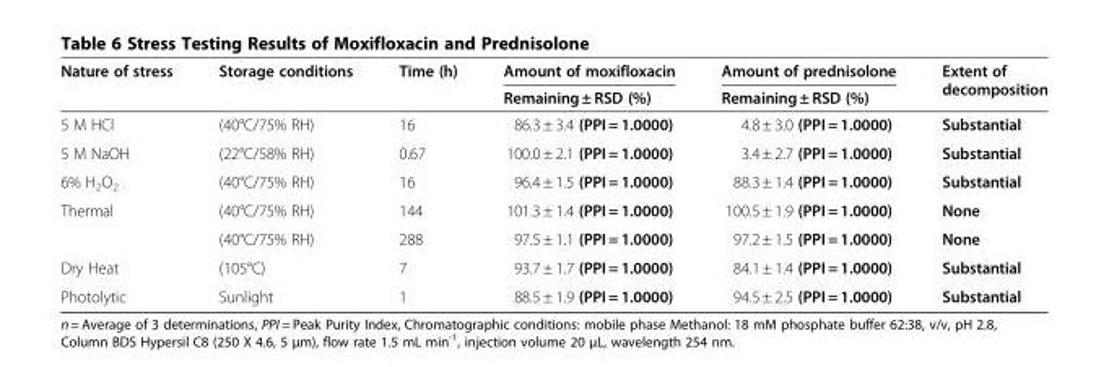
<table><thead><tr><td rowspan="2">Nature of stress</td><td rowspan="2">Storage conditions</td><td rowspan="2">Time (h)</td><td rowspan="2">Amount of moxifloxacin Remaining ± RSD (%)</td><td rowspan="2">Amount of prednisolone Remaining ± RSD (%)</td><td rowspan="2">Extent of decomposition</td></tr><tr></tr></thead><tbody><tr><td>5 M HCl</td><td>(40°C/75% RH)</td><td>16</td><td>86.3 ± 3.4 (PPI = 1.0000)</td><td>4.8 ± 3.0 (PPI = 1.0000)</td><td>Substantial</td></tr><tr><td>5 M NaOH</td><td>(22°C/58% RH)</td><td>0.67</td><td>100.0 ± 2.1 (PPI = 1.0000)</td><td>3.4 ± 2.7 (PPI = 1.0000)</td><td>Substantial</td></tr><tr><td>6% H<sub>2</sub>O<sub>2</sub></td><td>(40°C/75% RH)</td><td>16</td><td>96.4 ± 1.5 (PPI = 1.0000)</td><td>88.3 ± 1.4 (PPI = 1.0000)</td><td>Substantial</td></tr><tr><td rowspan="2">Thermal</td><td>(40°C/75% RH)</td><td>144</td><td>101.3 ± 1.4 (PPI = 1.0000)</td><td>100.5 ± 1.9 (PPI = 1.0000)</td><td>None</td></tr><tr><td>(40°C/75% RH)</td><td>288</td><td>97.5 ± 1.1 (PPI = 1.0000)</td><td>97.2 ± 1.5 (PPI = 1.0000)</td><td>None</td></tr><tr><td>Dry Heat</td><td>(105°C)</td><td>7</td><td>93.7 ± 1.7 (PPI = 1.0000)</td><td>84.1 ± 1.4 (PPI = 1.0000)</td><td>Substantial</td></tr><tr><td>Photolytic</td><td>Sunlight</td><td>1</td><td>88.5 ± 1.9 (PPI = 1.0000)</td><td>94.5 ± 2.5 (PPI = 1.0000)</td><td>Substantial</td></tr></tbody></table>